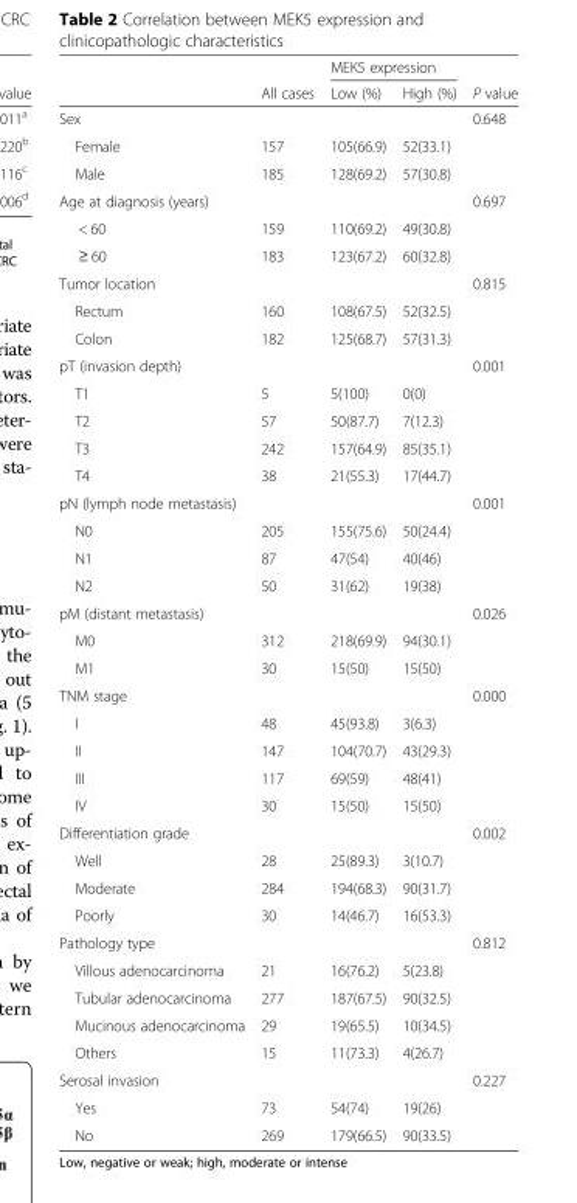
<table><thead><tr><td rowspan="2"></td><td rowspan="2">All cases</td><td colspan="2">MEK5 expression</td><td rowspan="2">P value</td></tr><tr><td>Low (%)</td><td>High (%)</td></tr></thead><tbody><tr><td>Sex</td><td></td><td></td><td></td><td>0.648</td></tr><tr><td>Female</td><td>157</td><td>105(66.9)</td><td>52(33.1)</td><td></td></tr><tr><td>Male</td><td>185</td><td>128(69.2)</td><td>57(30.8)</td><td></td></tr><tr><td>Age at diagnosis (years)</td><td></td><td></td><td></td><td>0.697</td></tr><tr><td>&lt; 60</td><td>159</td><td>110(69.2)</td><td>49(30.8)</td><td></td></tr><tr><td>≥ 60</td><td>183</td><td>123(67.2)</td><td>60(32.8)</td><td></td></tr><tr><td>Tumor location</td><td></td><td></td><td></td><td>0.815</td></tr><tr><td>Rectum</td><td>160</td><td>108(67.5)</td><td>52(32.5)</td><td></td></tr><tr><td>Colon</td><td>182</td><td>125(68.7)</td><td>57(31.3)</td><td></td></tr><tr><td>pT (invasion depth)</td><td></td><td></td><td></td><td>0.001</td></tr><tr><td>T1</td><td>5</td><td>5(100)</td><td>0(0)</td><td></td></tr><tr><td>T2</td><td>57</td><td>50(87.7)</td><td>7(12.3)</td><td></td></tr><tr><td>T3</td><td>242</td><td>157(64.9)</td><td>85(35.1)</td><td></td></tr><tr><td>T4</td><td>38</td><td>21(55.3)</td><td>17(44.7)</td><td></td></tr><tr><td>pN (lymph node metastasis)</td><td></td><td></td><td></td><td>0.001</td></tr><tr><td>N0</td><td>205</td><td>155(75.6)</td><td>50(24.4)</td><td></td></tr><tr><td>N1</td><td>87</td><td>47(54)</td><td>40(46)</td><td></td></tr><tr><td>N2</td><td>50</td><td>31(62)</td><td>19(38)</td><td></td></tr><tr><td>pM (distant metastasis)</td><td></td><td></td><td></td><td>0.026</td></tr><tr><td>M0</td><td>312</td><td>218(69.9)</td><td>94(30.1)</td><td></td></tr><tr><td>M1</td><td>30</td><td>15(50)</td><td>15(50)</td><td></td></tr><tr><td>TNM stage</td><td></td><td></td><td></td><td>0.000</td></tr><tr><td>I</td><td>48</td><td>45(93.8)</td><td>3(6.3)</td><td></td></tr><tr><td>II</td><td>147</td><td>104(70.7)</td><td>43(29.3)</td><td></td></tr><tr><td>III</td><td>117</td><td>69(59)</td><td>48(41)</td><td></td></tr><tr><td>IV</td><td>30</td><td>15(50)</td><td>15(50)</td><td></td></tr><tr><td>Differentiation grade</td><td></td><td></td><td></td><td>0.002</td></tr><tr><td>Well</td><td>28</td><td>25(89.3)</td><td>3(10.7)</td><td></td></tr><tr><td>Moderate</td><td>284</td><td>194(68.3)</td><td>90(31.7)</td><td></td></tr><tr><td>Poorly</td><td>30</td><td>14(46.7)</td><td>16(53.3)</td><td></td></tr><tr><td>Pathology type</td><td></td><td></td><td></td><td>0.812</td></tr><tr><td>Villous adenocarcinoma</td><td>21</td><td>16(76.2)</td><td>5(23.8)</td><td></td></tr><tr><td>Tubular adenocarcinoma</td><td>277</td><td>187(67.5)</td><td>90(32.5)</td><td></td></tr><tr><td>Mucinous adenocarcinoma</td><td>29</td><td>19(65.5)</td><td>10(34.5)</td><td></td></tr><tr><td>Others</td><td>15</td><td>11(73.3)</td><td>4(26.7)</td><td></td></tr><tr><td>Serosal invasion</td><td></td><td></td><td></td><td>0.227</td></tr><tr><td>Yes</td><td>73</td><td>54(74)</td><td>19(26)</td><td></td></tr><tr><td>No</td><td>269</td><td>179(66.5)</td><td>90(33.5)</td><td></td></tr></tbody></table>